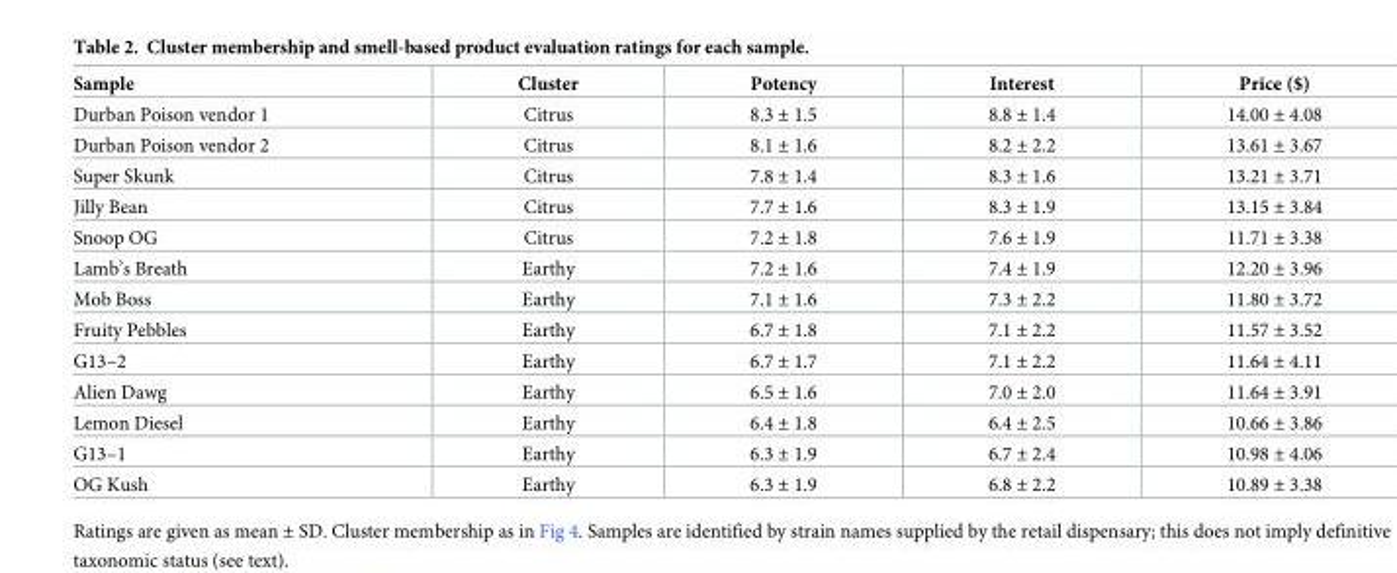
<table><thead><tr><td>Sample</td><td>Cluster</td><td>Potency</td><td>Interest</td><td>Price ($)</td></tr></thead><tbody><tr><td>Durban Poison vendor 1</td><td>Citrus</td><td>8.3 ± 1.5</td><td>8.8 ± 1.4</td><td>14.00 ± 4.08</td></tr><tr><td>Durban Poison vendor 2</td><td>Citrus</td><td>8.1 ± 1.6</td><td>8.2 ± 2.2</td><td>13.61 ± 3.67</td></tr><tr><td>Super Skunk</td><td>Citrus</td><td>7.8 ± 1.4</td><td>8.3 ± 1.6</td><td>13.21 ± 3.71</td></tr><tr><td>Jilly Bean</td><td>Citrus</td><td>7.7 ± 1.6</td><td>8.3 ± 1.9</td><td>13.15 ± 3.84</td></tr><tr><td>Snoop OG</td><td>Citrus</td><td>7.2 ± 1.8</td><td>7.6 ± 1.9</td><td>11.71 ± 3.38</td></tr><tr><td>Lamb’s Breath</td><td>Earthy</td><td>7.2 ± 1.6</td><td>7.4 ± 1.9</td><td>12.20 ± 3.96</td></tr><tr><td>Mob Boss</td><td>Earthy</td><td>7.1 ± 1.6</td><td>7.3 ± 2.2</td><td>11.80 ± 3.72</td></tr><tr><td>Fruity Pebbles</td><td>Earthy</td><td>6.7 ± 1.8</td><td>7.1 ± 2.2</td><td>11.57 ± 3.52</td></tr><tr><td>G13–2</td><td>Earthy</td><td>6.7 ± 1.7</td><td>7.1 ± 2.2</td><td>11.64 ± 4.11</td></tr><tr><td>Alien Dawg</td><td>Earthy</td><td>6.5 ± 1.6</td><td>7.0 ± 2.0</td><td>11.64 ± 3.91</td></tr><tr><td>Lemon Diesel</td><td>Earthy</td><td>6.4 ± 1.8</td><td>6.4 ± 2.5</td><td>10.66 ± 3.86</td></tr><tr><td>G13–1</td><td>Earthy</td><td>6.3 ± 1.9</td><td>6.7 ± 2.4</td><td>10.98 ± 4.06</td></tr><tr><td>OG Kush</td><td>Earthy</td><td>6.3 ± 1.9</td><td>6.8 ± 2.2</td><td>10.89 ± 3.38</td></tr></tbody></table>